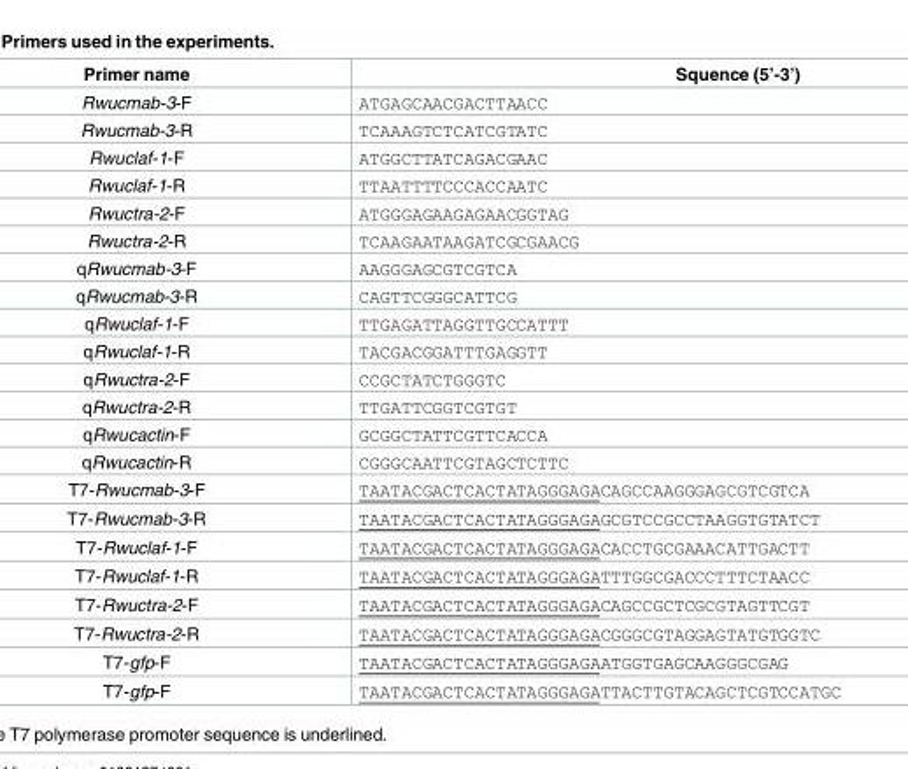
<table><thead><tr><td>Primer name</td><td>Squence (5’-3’)</td></tr></thead><tbody><tr><td>Rwucmab-3-F</td><td>ATGAGCAACGACTTAACC</td></tr><tr><td>Rwucmab-3-R</td><td>TCAAAGTCTCATCGTATC</td></tr><tr><td>Rwuclaf-1-F</td><td>ATGGCTTATCAGACGAAC</td></tr><tr><td>Rwuclaf-1-R</td><td>TTAATTTTCCCACCAATC</td></tr><tr><td>Rwuctra-2-F</td><td>ATGGGAGAAGAGAACGGTAG</td></tr><tr><td>Rwuctra-2-R</td><td>TCAAGAATAAGATCGCGAACG</td></tr><tr><td>qRwucmab-3-F</td><td>AAGGGAGCGTCGTCA</td></tr><tr><td>qRwucmab-3-R</td><td>CAGTTCGGGCATTCG</td></tr><tr><td>qRwuclaf-1-F</td><td>TTGAGATTAGGTTGCCATTT</td></tr><tr><td>qRwuclaf-1-R</td><td>TACGACGGATTTGAGGTT</td></tr><tr><td>qRwuctra-2-F</td><td>CCGCTATCTGGGTC</td></tr><tr><td>qRwuctra-2-R</td><td>TTGATTCGGTCGTGT</td></tr><tr><td>qRwucactin-F</td><td>GCGGCTATTCGTTCACCA</td></tr><tr><td>qRwucactin-R</td><td>CGGGCAATTCGTAGCTCTTC</td></tr><tr><td>T7-Rwucmab-3-F</td><td>TAATACGACTCACTATAGGGAGACAGCCAAGGGAGCGTCGTCA</td></tr><tr><td>T7-Rwucmab-3-R</td><td>TAATACGACTCACTATAGGGAGAGCGTCCGCCTAAGGTGTATCT</td></tr><tr><td>T7-Rwuclaf-1-F</td><td>TAATACGACTCACTATAGGGAGACACCTGCGAAACATTGACTT</td></tr><tr><td>T7-Rwuclaf-1-R</td><td>TAATACGACTCACTATAGGGAGATTTGGCGACCCTTTCTAACC</td></tr><tr><td>T7-Rwuctra-2-F</td><td>TAATACGACTCACTATAGGGAGACAGCCGCTCGCGTAGTTCGT</td></tr><tr><td>T7-Rwuctra-2-R</td><td>TAATACGACTCACTATAGGGAGACGGGCGTAGGAGTATGTGGTC</td></tr><tr><td>T7-gfp-F</td><td>TAATACGACTCACTATAGGGAGAATGGTGAGCAAGGGCGAG</td></tr><tr><td>T7-gfp-F</td><td>TAATACGACTCACTATAGGGAGATTACTTGTACAGCTCGTCCATGC</td></tr></tbody></table>